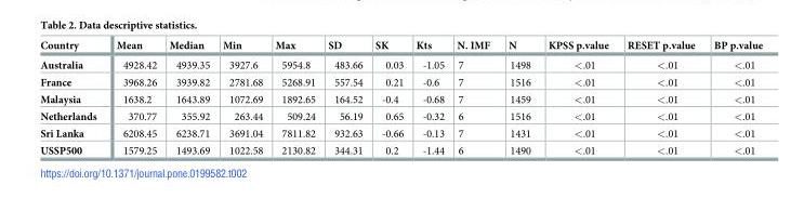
<table><thead><tr><td>Country</td><td>Mean</td><td>Median</td><td>Min</td><td>Max</td><td>SD</td><td>SK</td><td>Kts</td><td>N. IMF</td><td>N</td><td>KPSS p.value</td><td>RESET p.value</td><td>BP p.value</td></tr></thead><tbody><tr><td>Australia</td><td>4928.42</td><td>4939.35</td><td>3927.6</td><td>5954.8</td><td>483.66</td><td>0.03</td><td>-1.05</td><td>7</td><td>1498</td><td>&lt;.01</td><td>&lt;.01</td><td>&lt;.01</td></tr><tr><td>France</td><td>3968.26</td><td>3939.82</td><td>2781.68</td><td>5268.91</td><td>557.54</td><td>0.21</td><td>-0.6</td><td>7</td><td>1516</td><td>&lt;.01</td><td>&lt;.01</td><td>&lt;.01</td></tr><tr><td>Malaysia</td><td>1638.2</td><td>1643.89</td><td>1072.69</td><td>1892.65</td><td>164.52</td><td>-0.4</td><td>-0.68</td><td>7</td><td>1459</td><td>&lt;.01</td><td>&lt;.01</td><td>&lt;.01</td></tr><tr><td>Netherlands</td><td>370.77</td><td>355.92</td><td>263.44</td><td>509.24</td><td>56.19</td><td>0.65</td><td>-0.32</td><td>6</td><td>1516</td><td>&lt;.01</td><td>&lt;.01</td><td>&lt;.01</td></tr><tr><td>Sri Lanka</td><td>6208.45</td><td>6238.71</td><td>3691.04</td><td>7811.82</td><td>932.63</td><td>-0.66</td><td>-0.13</td><td>7</td><td>1431</td><td>&lt;.01</td><td>&lt;.01</td><td>&lt;.01</td></tr><tr><td>USSP500</td><td>1579.25</td><td>1493.69</td><td>1022.58</td><td>2130.82</td><td>344.31</td><td>0.2</td><td>-1.44</td><td>6</td><td>1490</td><td>&lt;.01</td><td>&lt;.01</td><td>&lt;.01</td></tr></tbody></table>